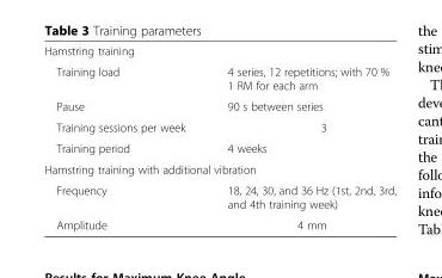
<table><tbody><tr><td colspan="2">Hamstring training</td></tr><tr><td>Training load</td><td>4 series, 12 repetitions; with 70 % 1 RM for each arm</td></tr><tr><td>Pause</td><td>90 s between series</td></tr><tr><td>Training sessions per week</td><td>3</td></tr><tr><td>Training period</td><td>4 weeks</td></tr><tr><td colspan="2">Hamstring training with additional vibration</td></tr><tr><td>Frequency</td><td>18, 24, 30, and 36 Hz (1st, 2nd, 3rd, and 4th training week)</td></tr><tr><td>Amplitude</td><td>4 mm</td></tr></tbody></table>